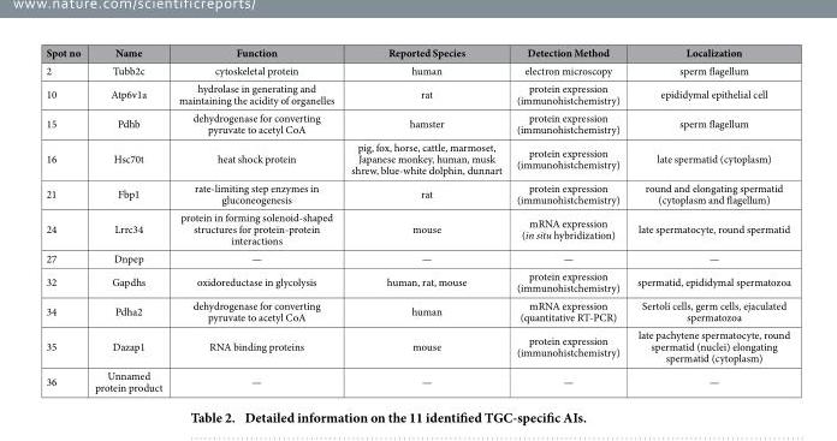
<table><thead><tr><td>Spot no</td><td>Name</td><td>Function</td><td>Reported Species</td><td>Detection Method</td><td>Localization</td></tr></thead><tbody><tr><td>2</td><td>Tubb2c</td><td>cytoskeletal protein</td><td>human</td><td>electron microscopy</td><td>sperm flagellum</td></tr><tr><td>10</td><td>Atp6v1a</td><td>hydrolase in generating and maintaining the acidity of organelles</td><td>rat</td><td>protein expression (immunohistchemistry)</td><td>epididymal epithelial cell</td></tr><tr><td>15</td><td>Pdhb</td><td>dehydrogenase for converting pyruvate to acetyl CoA</td><td>hamster</td><td>protein expression (immunohistchemistry)</td><td>sperm flagellum</td></tr><tr><td>16</td><td>Hsc70t</td><td>heat shock protein</td><td>pig, fox, horse, cattle, marmoset, Japanese monkey, human, musk shrew, blue-white dolphin, dunnart</td><td>protein expression (immunohistchemistry)</td><td>late spermatid (cytoplasm)</td></tr><tr><td>21</td><td>Fbp1</td><td>rate-limiting step enzymes in gluconeogenesis</td><td>rat</td><td>protein expression (immunohistchemistry)</td><td>round and elongating spermatid (cytoplasm and flagellum)</td></tr><tr><td>24</td><td>Lrrc34</td><td>protein in forming solenoid-shaped structures for protein-protein interactions</td><td>mouse</td><td>mRNA expression (in situ hybridization)</td><td>late spermatocyte, round spermatid</td></tr><tr><td>27</td><td>Dnpep</td><td>—</td><td>—</td><td>—</td><td>—</td></tr><tr><td>32</td><td>Gapdhs</td><td>oxidoreductase in glycolysis</td><td>human, rat, mouse</td><td>protein expression (immunohistchemistry)</td><td>spermatid, epididymal spermatozoa</td></tr><tr><td>34</td><td>Pdha2</td><td>dehydrogenase for converting pyruvate to acetyl CoA</td><td>human</td><td>mRNA expression (quantitative RT-PCR)</td><td>Sertoli cells, germ cells, ejaculated spermatozoa</td></tr><tr><td>35</td><td>Dazap1</td><td>RNA binding proteins</td><td>mouse</td><td>protein expression (immunohistchemistry)</td><td>late pachytene spermatocyte, round spermatid (nuclei) elongating spermatid (cytoplasm)</td></tr><tr><td>36</td><td>Unnamed protein product</td><td>—</td><td>—</td><td>—</td><td>—</td></tr></tbody></table>